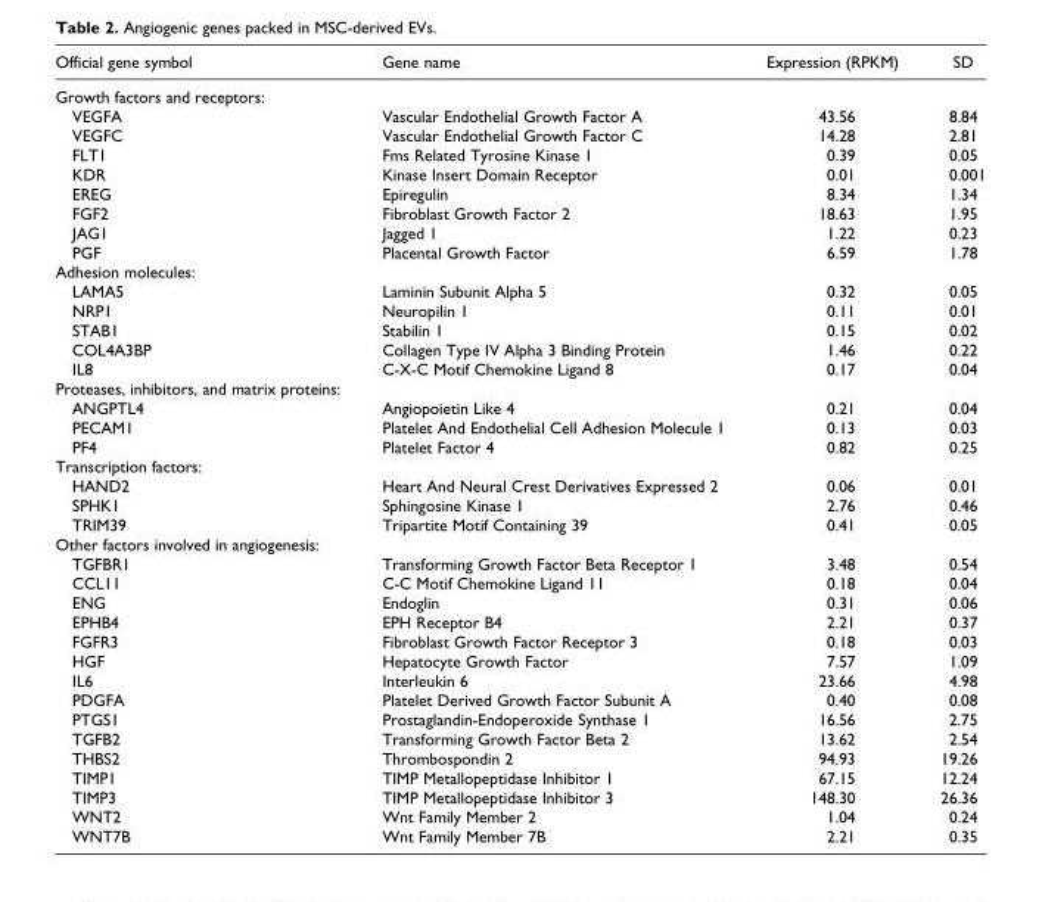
<table><thead><tr><td>Official gene symbol</td><td>Gene name</td><td>Expression (RPKM)</td><td>SD</td></tr></thead><tbody><tr><td colspan="4">Growth factors and receptors:</td></tr><tr><td>VEGFA</td><td>Vascular Endothelial Growth Factor A</td><td>43.56</td><td>8.84</td></tr><tr><td>VEGFC</td><td>Vascular Endothelial Growth Factor C</td><td>14.28</td><td>2.81</td></tr><tr><td>FLT1</td><td>Fms Related Tyrosine Kinase 1</td><td>0.39</td><td>0.05</td></tr><tr><td>KDR</td><td>Kinase Insert Domain Receptor</td><td>0.01</td><td>0.001</td></tr><tr><td>EREG</td><td>Epiregulin</td><td>8.34</td><td>1.34</td></tr><tr><td>FGF2</td><td>Fibroblast Growth Factor 2</td><td>18.63</td><td>1.95</td></tr><tr><td>JAG1</td><td>Jagged 1</td><td>1.22</td><td>0.23</td></tr><tr><td>PGF</td><td>Placental Growth Factor</td><td>6.59</td><td>1.78</td></tr><tr><td colspan="4">Adhesion molecules:</td></tr><tr><td>LAMA5</td><td>Laminin Subunit Alpha 5</td><td>0.32</td><td>0.05</td></tr><tr><td>NRP1</td><td>Neuropilin 1</td><td>0.11</td><td>0.01</td></tr><tr><td>STAB1</td><td>Stabilin 1</td><td>0.15</td><td>0.02</td></tr><tr><td>COL4A3BP</td><td>Collagen Type IV Alpha 3 Binding Protein</td><td>1.46</td><td>0.22</td></tr><tr><td>IL8</td><td>C-X-C Motif Chemokine Ligand 8</td><td>0.17</td><td>0.04</td></tr><tr><td colspan="4">Proteases, inhibitors, and matrix proteins:</td></tr><tr><td>ANGPTL4</td><td>Angiopoietin Like 4</td><td>0.21</td><td>0.04</td></tr><tr><td>PECAM1</td><td>Platelet And Endothelial Cell Adhesion Molecule 1</td><td>0.13</td><td>0.03</td></tr><tr><td>PF4</td><td>Platelet Factor 4</td><td>0.82</td><td>0.25</td></tr><tr><td colspan="4">Transcription factors:</td></tr><tr><td>HAND2</td><td>Heart And Neural Crest Derivatives Expressed 2</td><td>0.06</td><td>0.01</td></tr><tr><td>SPHK1</td><td>Sphingosine Kinase 1</td><td>2.76</td><td>0.46</td></tr><tr><td>TRIM39</td><td>Tripartite Motif Containing 39</td><td>0.41</td><td>0.05</td></tr><tr><td colspan="4">Other factors involved in angiogenesis:</td></tr><tr><td>TGFBR1</td><td>Transforming Growth Factor Beta Receptor 1</td><td>3.48</td><td>0.54</td></tr><tr><td>CCL11</td><td>C-C Motif Chemokine Ligand 11</td><td>0.18</td><td>0.04</td></tr><tr><td>ENG</td><td>Endoglin</td><td>0.31</td><td>0.06</td></tr><tr><td>EPHB4</td><td>EPH Receptor B4</td><td>2.21</td><td>0.37</td></tr><tr><td>FGFR3</td><td>Fibroblast Growth Factor Receptor 3</td><td>0.18</td><td>0.03</td></tr><tr><td>HGF</td><td>Hepatocyte Growth Factor</td><td>7.57</td><td>1.09</td></tr><tr><td>IL6</td><td>Interleukin 6</td><td>23.66</td><td>4.98</td></tr><tr><td>PDGFA</td><td>Platelet Derived Growth Factor Subunit A</td><td>0.40</td><td>0.08</td></tr><tr><td>PTGS1</td><td>Prostaglandin-Endoperoxide Synthase 1</td><td>16.56</td><td>2.75</td></tr><tr><td>TGFB2</td><td>Transforming Growth Factor Beta 2</td><td>13.62</td><td>2.54</td></tr><tr><td>THBS2</td><td>Thrombospondin 2</td><td>94.93</td><td>19.26</td></tr><tr><td>TIMP1</td><td>TIMP Metallopeptidase Inhibitor 1</td><td>67.15</td><td>12.24</td></tr><tr><td>TIMP3</td><td>TIMP Metallopeptidase Inhibitor 3</td><td>148.30</td><td>26.36</td></tr><tr><td>WNT2</td><td>Wnt Family Member 2</td><td>1.04</td><td>0.24</td></tr><tr><td>WNT7B</td><td>Wnt Family Member 7B</td><td>2.21</td><td>0.35</td></tr></tbody></table>